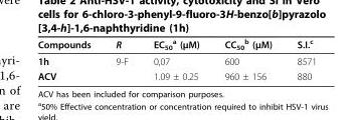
<table><thead><tr><td>Compounds</td><td>R</td><td>EC<sub>50</sub> <sup>a</sup> (μM)</td><td>CC<sub>50</sub> <sup>b</sup> (μM)</td><td>S.I.<sup>c</sup></td></tr></thead><tbody><tr><td>1h</td><td>9-F</td><td>0,07</td><td>600</td><td>8571</td></tr><tr><td>ACV</td><td></td><td>1.09 ± 0.25</td><td>960 ± 156</td><td>880</td></tr></tbody></table>